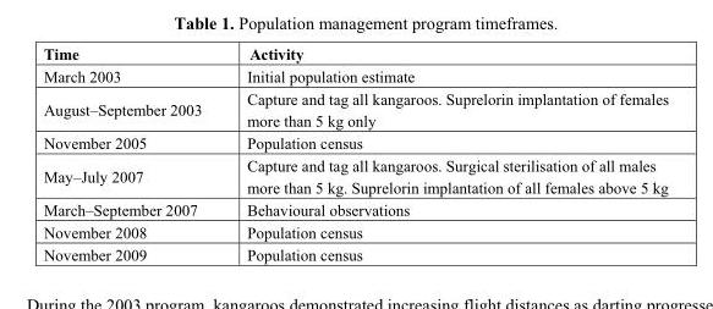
<table><thead><tr><td>Time</td><td>Activity</td></tr></thead><tbody><tr><td>March 2003</td><td>Initial population estimate</td></tr><tr><td>August–September 2003</td><td>Capture and tag all kangaroos. Suprelorin implantation of females more than 5 kg only</td></tr><tr><td>November 2005</td><td>Population census</td></tr><tr><td>May–July 2007</td><td>Capture and tag all kangaroos. Surgical sterilisation of all males more than 5 kg. Suprelorin implantation of all females above 5 kg</td></tr><tr><td>March–September 2007</td><td>Behavioural observations</td></tr><tr><td>November 2008</td><td>Population census</td></tr><tr><td>November 2009</td><td>Population census</td></tr></tbody></table>